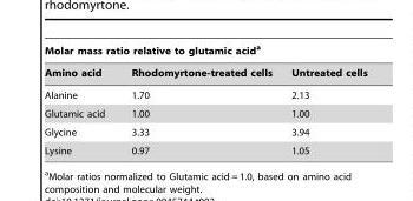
<table><thead><tr><td colspan="3">Molar mass ratio relative to glutamic acid<sup>a</sup></td></tr><tr><td>Amino acid</td><td>Rhodomyrtone-treated cells</td><td>Untreated cells</td></tr></thead><tbody><tr><td>Alanine</td><td>1.70</td><td>2.13</td></tr><tr><td>Glutamic acid</td><td>1.00</td><td>1.00</td></tr><tr><td>Glycine</td><td>3.33</td><td>3.94</td></tr><tr><td>Lysine</td><td>0.97</td><td>1.05</td></tr></tbody></table>